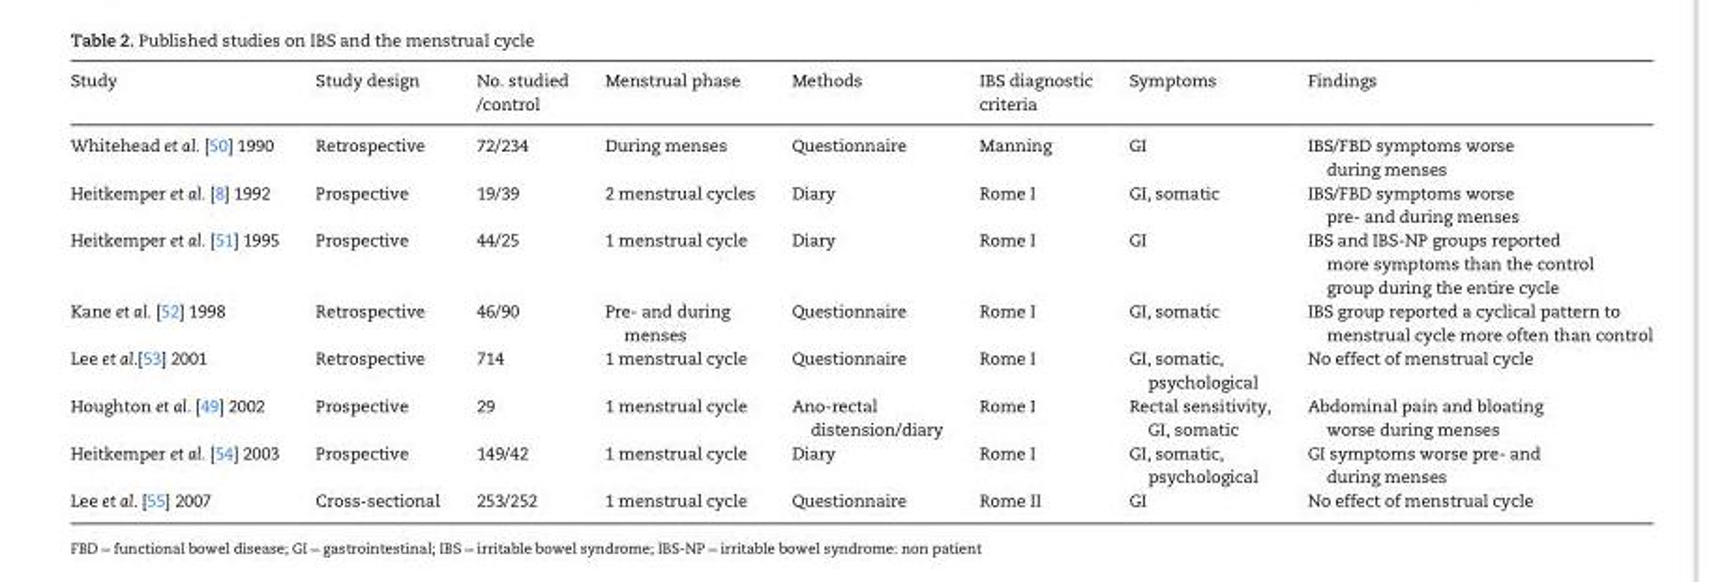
<table><thead><tr><td>Study</td><td>Study design</td><td>No. studied /control</td><td>Menstrual phase</td><td>Methods</td><td>IBS diagnostic criteria</td><td>Symptoms</td><td>Findings</td></tr></thead><tbody><tr><td>Whitehead et al. [50] 1990</td><td>Retrospective</td><td>72/234</td><td>During menses</td><td>Questionnaire</td><td>Manning</td><td>GI</td><td>IBS/FBD symptoms worse during menses</td></tr><tr><td>Heitkemper et al. [8] 1992</td><td>Prospective</td><td>19/39</td><td>2 menstrual cycles</td><td>Diary</td><td>Rome I</td><td>GI, somatic</td><td>IBS/FBD symptoms worse pre- and during menses</td></tr><tr><td>Heitkemper et al. [51] 1995</td><td>Prospective</td><td>44/25</td><td>1 menstrual cycle</td><td>Diary</td><td>Rome I</td><td>GI</td><td>IBS and IBS-NP groups reported more symptoms than the control group during the entire cycle</td></tr><tr><td>Kane et al. [52] 1998</td><td>Retrospective</td><td>46/90</td><td>Pre- and during menses</td><td>Questionnaire</td><td>Rome I</td><td>GI, somatic</td><td>IBS group reported a cyclical pattern to menstrual cycle more often than control</td></tr><tr><td>Lee et al.[53] 2001</td><td>Retrospective</td><td>714</td><td>1 menstrual cycle</td><td>Questionnaire</td><td>Rome I</td><td>GI, somatic, psychological</td><td>No effect of menstrual cycle</td></tr><tr><td>Houghton et al. [49] 2002</td><td>Prospective</td><td>29</td><td>1 menstrual cycle</td><td>Ano-rectal distension/diary</td><td>Rome I</td><td>Rectal sensitivity, GI, somatic</td><td>Abdominal pain and bloating worse during menses</td></tr><tr><td>Heitkemper et al. [54] 2003</td><td>Prospective</td><td>149/42</td><td>1 menstrual cycle</td><td>Diary</td><td>Rome I</td><td>GI, somatic, psychological</td><td>GI symptoms worse pre- and during menses</td></tr><tr><td>Lee et al. [55] 2007</td><td>Cross-sectional</td><td>253/252</td><td>1 menstrual cycle</td><td>Questionnaire</td><td>Rome II</td><td>GI</td><td>No effect of menstrual cycle</td></tr></tbody></table>